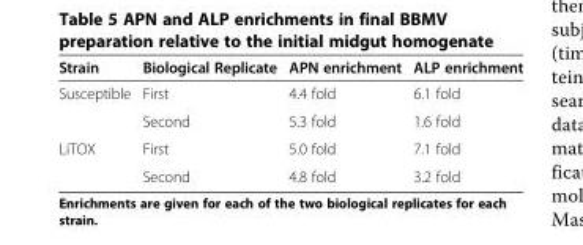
<table><thead><tr><td>Strain</td><td>Biological Replicate</td><td>APN enrichment</td><td>ALP enrichment</td></tr></thead><tbody><tr><td rowspan="2">Susceptible</td><td>First</td><td>4.4 fold</td><td>6.1 fold</td></tr><tr><td>Second</td><td>5.3 fold</td><td>1.6 fold</td></tr><tr><td rowspan="2">LiTOX</td><td>First</td><td>5.0 fold</td><td>7.1 fold</td></tr><tr><td>Second</td><td>4.8 fold</td><td>3.2 fold</td></tr></tbody></table>